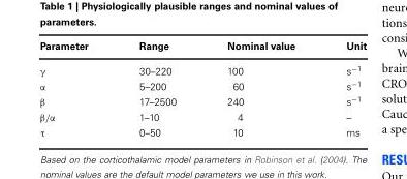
<table><thead><tr><td>Parameter</td><td>Range</td><td>Nominal value</td><td>Unit</td></tr></thead><tbody><tr><td>γ</td><td>30–220</td><td>100</td><td>s<sup>−1</sup></td></tr><tr><td>α</td><td>5–200</td><td>60</td><td>s<sup>−1</sup></td></tr><tr><td>β</td><td>17–2500</td><td>240</td><td>s<sup>−1</sup></td></tr><tr><td>β/α</td><td>1–10</td><td>4</td><td>–</td></tr><tr><td>τ</td><td>0–50</td><td>10</td><td>ms</td></tr></tbody></table>